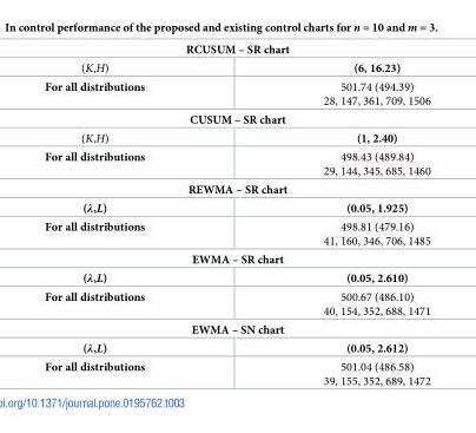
<table><tbody><tr><td colspan="2">RCUSUM – SR chart</td></tr><tr><td>(K,H)</td><td>(6, 16.23)</td></tr><tr><td>For all distributions</td><td>501.74 (494.39) 28, 147, 361, 709, 1506</td></tr><tr><td colspan="2">CUSUM – SR chart</td></tr><tr><td>(K,H)</td><td>(1, 2.40)</td></tr><tr><td>For all distributions</td><td>498.43 (489.84) 29, 144, 345, 685, 1460</td></tr><tr><td colspan="2">REWMA – SR chart</td></tr><tr><td>(λ,L)</td><td>(0.05, 1.925)</td></tr><tr><td>For all distributions</td><td>498.81 (479.16) 41, 160, 346, 706, 1485</td></tr><tr><td colspan="2">EWMA – SR chart</td></tr><tr><td>(λ,L)</td><td>(0.05, 2.610)</td></tr><tr><td>For all distributions</td><td>500.67 (486.10) 40, 154, 352, 688, 1471</td></tr><tr><td colspan="2">EWMA – SN chart</td></tr><tr><td>(λ,L)</td><td>(0.05, 2.612)</td></tr><tr><td>For all distributions</td><td>501.04 (486.58) 39, 155, 352, 689, 1472</td></tr></tbody></table>